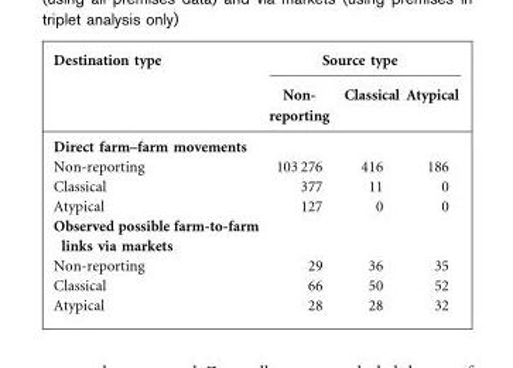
<table><thead><tr><td rowspan="2">Destination type</td><td colspan="3">Source type</td></tr><tr><td>Non- reporting</td><td>Classical</td><td>Atypical</td></tr></thead><tbody><tr><td colspan="4">Direct farm–farm movements</td></tr><tr><td>Non-reporting</td><td>103 276</td><td>416</td><td>186</td></tr><tr><td>Classical</td><td>377</td><td>11</td><td>0</td></tr><tr><td>Atypical</td><td>127</td><td>0</td><td>0</td></tr><tr><td colspan="4">Observed possible farm-to-farm links via markets</td></tr><tr><td>Non-reporting</td><td>29</td><td>36</td><td>35</td></tr><tr><td>Classical</td><td>66</td><td>50</td><td>52</td></tr><tr><td>Atypical</td><td>28</td><td>28</td><td>32</td></tr></tbody></table>